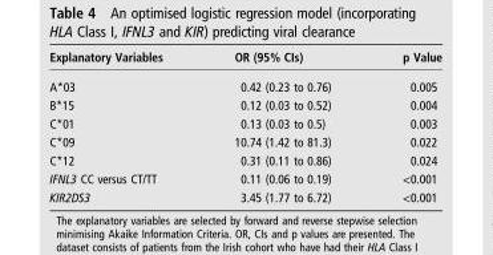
<table><thead><tr><td>Explanatory Variables</td><td>OR (95% CIs)</td><td>p Value</td></tr></thead><tbody><tr><td>A*03</td><td>0.42 (0.23 to 0.76)</td><td>0.005</td></tr><tr><td>B*15</td><td>0.12 (0.03 to 0.52)</td><td>0.004</td></tr><tr><td>C*01</td><td>0.13 (0.03 to 0.5)</td><td>0.003</td></tr><tr><td>C*09</td><td>10.74 (1.42 to 81.3)</td><td>0.022</td></tr><tr><td>C*12</td><td>0.31 (0.11 to 0.86)</td><td>0.024</td></tr><tr><td>IFNL3 CC versus CT/TT</td><td>0.11 (0.06 to 0.19)</td><td>&lt;0.001</td></tr><tr><td>KIR2DS3</td><td>3.45 (1.77 to 6.72)</td><td>&lt;0.001</td></tr></tbody></table>